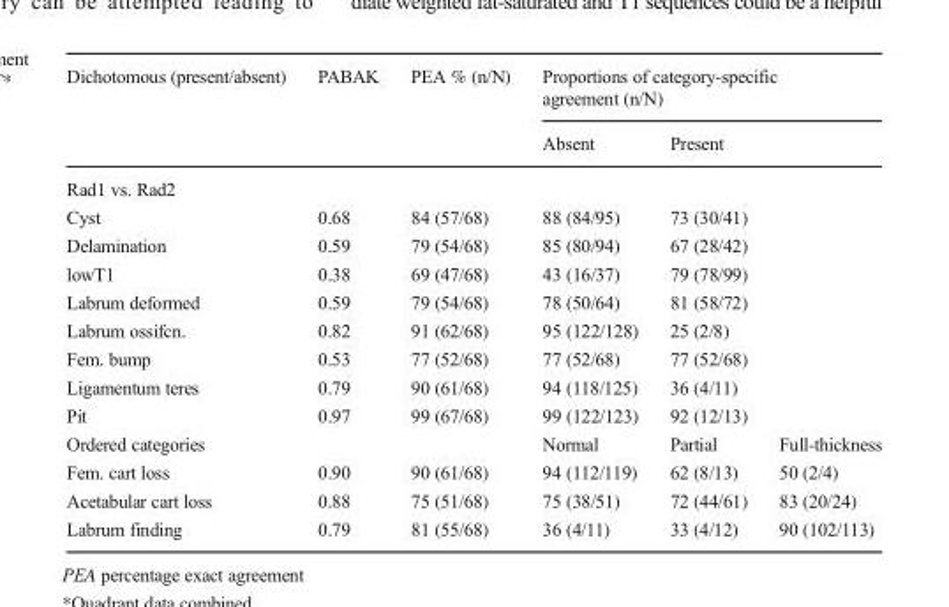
<table><thead><tr><td rowspan="2">Dichotomous (present/absent)</td><td rowspan="2">PABAK</td><td rowspan="2">PEA % (n/N)</td><td colspan="3">Proportions of category-specific agreement (n/N)</td></tr><tr><td>Absent</td><td>Present</td><td></td></tr></thead><tbody><tr><td colspan="6">Rad1 vs. Rad2</td></tr><tr><td>Cyst</td><td>0.68</td><td>84 (57/68)</td><td>88 (84/95)</td><td>73 (30/41)</td><td></td></tr><tr><td>Delamination</td><td>0.59</td><td>79 (54/68)</td><td>85 (80/94)</td><td>67 (28/42)</td><td></td></tr><tr><td>lowT1</td><td>0.38</td><td>69 (47/68)</td><td>43 (16/37)</td><td>79 (78/99)</td><td></td></tr><tr><td>Labrum deformed</td><td>0.59</td><td>79 (54/68)</td><td>78 (50/64)</td><td>81 (58/72)</td><td></td></tr><tr><td>Labrum ossifcn.</td><td>0.82</td><td>91 (62/68)</td><td>95 (122/128)</td><td>25 (2/8)</td><td></td></tr><tr><td>Fem. bump</td><td>0.53</td><td>77 (52/68)</td><td>77 (52/68)</td><td>77 (52/68)</td><td></td></tr><tr><td>Ligamentum teres</td><td>0.79</td><td>90 (61/68)</td><td>94 (118/125)</td><td>36 (4/11)</td><td></td></tr><tr><td>Pit</td><td>0.97</td><td>99 (67/68)</td><td>99 (122/123)</td><td>92 (12/13)</td><td></td></tr><tr><td>Ordered categories</td><td></td><td></td><td>Normal</td><td>Partial</td><td>Full-thickness</td></tr><tr><td>Fem. cart loss</td><td>0.90</td><td>90 (61/68)</td><td>94 (112/119)</td><td>62 (8/13)</td><td>50 (2/4)</td></tr><tr><td>Acetabular cart loss</td><td>0.88</td><td>75 (51/68)</td><td>75 (38/51)</td><td>72 (44/61)</td><td>83 (20/24)</td></tr><tr><td>Labrum finding</td><td>0.79</td><td>81 (55/68)</td><td>36 (4/11)</td><td>33 (4/12)</td><td>90 (102/113)</td></tr></tbody></table>